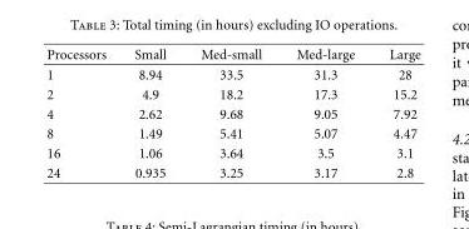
<table><thead><tr><td>Processors</td><td>Small</td><td>Med-small</td><td>Med-large</td><td>Large</td></tr></thead><tbody><tr><td>1</td><td>8.94</td><td>33.5</td><td>31.3</td><td>28</td></tr><tr><td>2</td><td>4.9</td><td>18.2</td><td>17.3</td><td>15.2</td></tr><tr><td>4</td><td>2.62</td><td>9.68</td><td>9.05</td><td>7.92</td></tr><tr><td>8</td><td>1.49</td><td>5.41</td><td>5.07</td><td>4.47</td></tr><tr><td>16</td><td>1.06</td><td>3.64</td><td>3.5</td><td>3.1</td></tr><tr><td>24</td><td>0.935</td><td>3.25</td><td>3.17</td><td>2.8</td></tr></tbody></table>